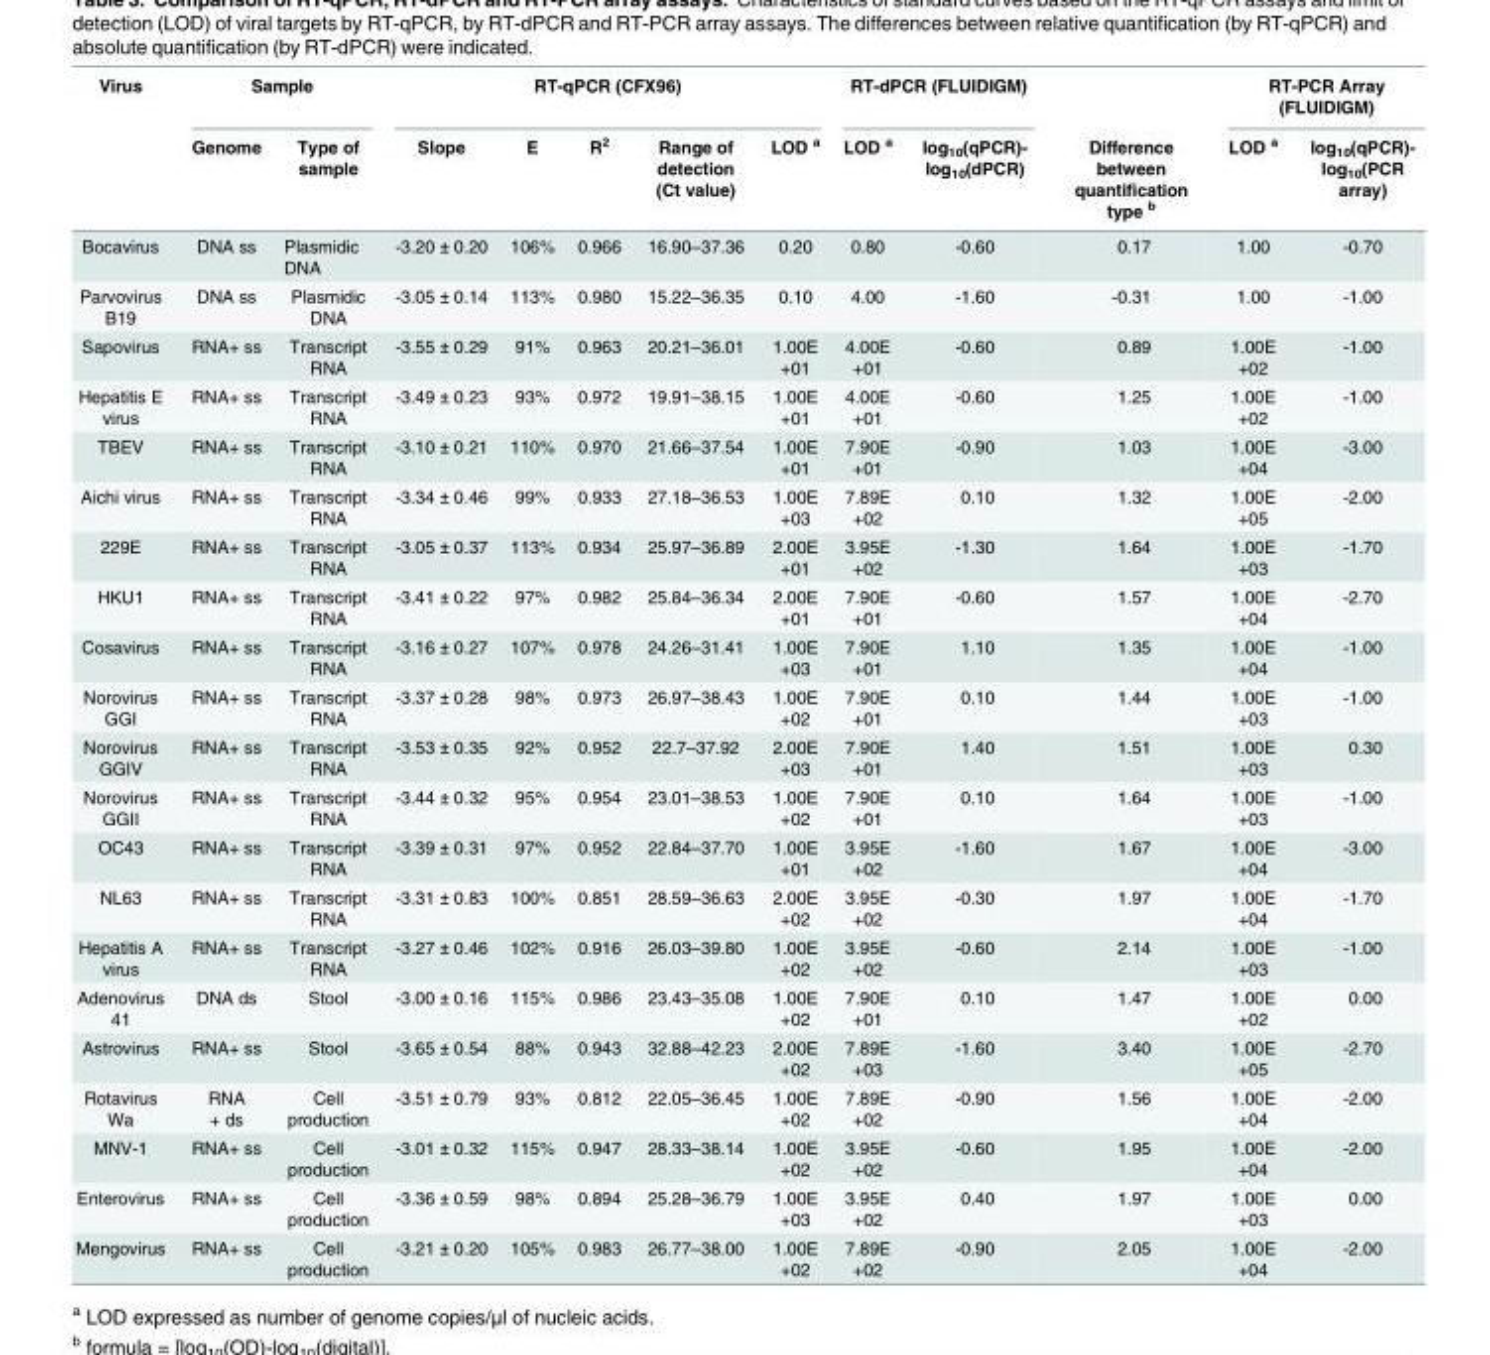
<table><thead><tr><td rowspan="2">Virus</td><td colspan="2">Sample</td><td colspan="5">RT-qPCR (CFX96)</td><td colspan="2">RT-dPCR (FLUIDIGM)</td><td rowspan="2">Difference between quantification type <sup>b</sup></td><td colspan="2">RT-PCR Array (FLUIDIGM)</td></tr><tr><td>Genome</td><td>Type of sample</td><td>Slope</td><td>E</td><td>R<sup>2</sup></td><td>Range of detection (Ct value)</td><td>LOD <sup>a</sup></td><td>LOD <sup>a</sup></td><td>log<sub>10</sub>(qPCR)- log<sub>10</sub>(dPCR)</td><td>LOD <sup>a</sup></td><td>log<sub>10</sub>(qPCR)- log<sub>10</sub>(PCR array)</td></tr></thead><tbody><tr><td>Bocavirus</td><td>DNA ss</td><td>Plasmidic DNA</td><td>-3.20 ± 0.20</td><td>106%</td><td>0.966</td><td>16.90–37.36</td><td>0.20</td><td>0.80</td><td>-0.60</td><td>0.17</td><td>1.00</td><td>-0.70</td></tr><tr><td>Parvovirus B19</td><td>DNA ss</td><td>Plasmidic DNA</td><td>-3.05 ± 0.14</td><td>113%</td><td>0.980</td><td>15.22–36.35</td><td>0.10</td><td>4.00</td><td>-1.60</td><td>-0.31</td><td>1.00</td><td>-1.00</td></tr><tr><td>Sapovirus</td><td>RNA+ ss</td><td>Transcript RNA</td><td>-3.55 ± 0.29</td><td>91%</td><td>0.963</td><td>20.21–36.01</td><td>1.00E +01</td><td>4.00E +01</td><td>-0.60</td><td>0.89</td><td>1.00E +02</td><td>-1.00</td></tr><tr><td>Hepatitis E virus</td><td>RNA+ ss</td><td>Transcript RNA</td><td>-3.49 ± 0.23</td><td>93%</td><td>0.972</td><td>19.91–38.15</td><td>1.00E +01</td><td>4.00E +01</td><td>-0.60</td><td>1.25</td><td>1.00E +02</td><td>-1.00</td></tr><tr><td>TBEV</td><td>RNA+ ss</td><td>Transcript RNA</td><td>-3.10 ± 0.21</td><td>110%</td><td>0.970</td><td>21.66–37.54</td><td>1.00E +01</td><td>7.90E +01</td><td>-0.90</td><td>1.03</td><td>1.00E +04</td><td>-3.00</td></tr><tr><td>Aichi virus</td><td>RNA+ ss</td><td>Transcript RNA</td><td>-3.34 ± 0.46</td><td>99%</td><td>0.933</td><td>27.18–36.53</td><td>1.00E +03</td><td>7.89E +02</td><td>0.10</td><td>1.32</td><td>1.00E +05</td><td>-2.00</td></tr><tr><td>229E</td><td>RNA+ ss</td><td>Transcript RNA</td><td>-3.05 ± 0.37</td><td>113%</td><td>0.934</td><td>25.97–36.89</td><td>2.00E +01</td><td>3.95E +02</td><td>-1.30</td><td>1.64</td><td>1.00E +03</td><td>-1.70</td></tr><tr><td>HKU1</td><td>RNA+ ss</td><td>Transcript RNA</td><td>-3.41 ± 0.22</td><td>97%</td><td>0.982</td><td>25.84–36.34</td><td>2.00E +01</td><td>7.90E +01</td><td>-0.60</td><td>1.57</td><td>1.00E +04</td><td>-2.70</td></tr><tr><td>Cosavirus</td><td>RNA+ ss</td><td>Transcript RNA</td><td>-3.16 ± 0.27</td><td>107%</td><td>0.978</td><td>24.26–31.41</td><td>1.00E +03</td><td>7.90E +01</td><td>1.10</td><td>1.35</td><td>1.00E +04</td><td>-1.00</td></tr><tr><td>Norovirus GGI</td><td>RNA+ ss</td><td>Transcript RNA</td><td>-3.37 ± 0.28</td><td>98%</td><td>0.973</td><td>26.97–38.43</td><td>1.00E +02</td><td>7.90E +01</td><td>0.10</td><td>1.44</td><td>1.00E +03</td><td>-1.00</td></tr><tr><td>Norovirus GGIV</td><td>RNA+ ss</td><td>Transcript RNA</td><td>-3.53 ± 0.35</td><td>92%</td><td>0.952</td><td>22.7–37.92</td><td>2.00E +03</td><td>7.90E +01</td><td>1.40</td><td>1.51</td><td>1.00E +03</td><td>0.30</td></tr><tr><td>Norovirus GGII</td><td>RNA+ ss</td><td>Transcript RNA</td><td>-3.44 ± 0.32</td><td>95%</td><td>0.954</td><td>23.01–38.53</td><td>1.00E +02</td><td>7.90E +01</td><td>0.10</td><td>1.64</td><td>1.00E +03</td><td>-1.00</td></tr><tr><td>OC43</td><td>RNA+ ss</td><td>Transcript RNA</td><td>-3.39 ± 0.31</td><td>97%</td><td>0.952</td><td>22.84–37.70</td><td>1.00E +01</td><td>3.95E +02</td><td>-1.60</td><td>1.67</td><td>1.00E +04</td><td>-3.00</td></tr><tr><td>NL63</td><td>RNA+ ss</td><td>Transcript RNA</td><td>-3.31 ± 0.83</td><td>100%</td><td>0.851</td><td>28.59–36.63</td><td>2.00E +02</td><td>3.95E +02</td><td>-0.30</td><td>1.97</td><td>1.00E +04</td><td>-1.70</td></tr><tr><td>Hepatitis A virus</td><td>RNA+ ss</td><td>Transcript RNA</td><td>-3.27 ± 0.46</td><td>102%</td><td>0.916</td><td>26.03–39.80</td><td>1.00E +02</td><td>3.95E +02</td><td>-0.60</td><td>2.14</td><td>1.00E +03</td><td>-1.00</td></tr><tr><td>Adenovirus 41</td><td>DNA ds</td><td>Stool</td><td>-3.00 ± 0.16</td><td>115%</td><td>0.986</td><td>23.43–35.08</td><td>1.00E +02</td><td>7.90E +01</td><td>0.10</td><td>1.47</td><td>1.00E +02</td><td>0.00</td></tr><tr><td>Astrovirus</td><td>RNA+ ss</td><td>Stool</td><td>-3.65 ± 0.54</td><td>88%</td><td>0.943</td><td>32.88–42.23</td><td>2.00E +02</td><td>7.89E +03</td><td>-1.60</td><td>3.40</td><td>1.00E +05</td><td>-2.70</td></tr><tr><td>Rotavirus Wa</td><td>RNA + ds</td><td>Cell production</td><td>-3.51 ± 0.79</td><td>93%</td><td>0.812</td><td>22.05–36.45</td><td>1.00E +02</td><td>7.89E +02</td><td>-0.90</td><td>1.56</td><td>1.00E +04</td><td>-2.00</td></tr><tr><td>MNV-1</td><td>RNA+ ss</td><td>Cell production</td><td>-3.01 ± 0.32</td><td>115%</td><td>0.947</td><td>28.33–38.14</td><td>1.00E +02</td><td>3.95E +02</td><td>-0.60</td><td>1.95</td><td>1.00E +04</td><td>-2.00</td></tr><tr><td>Enterovirus</td><td>RNA+ ss</td><td>Cell production</td><td>-3.36 ± 0.59</td><td>98%</td><td>0.894</td><td>25.28–36.79</td><td>1.00E +03</td><td>3.95E +02</td><td>0.40</td><td>1.97</td><td>1.00E +03</td><td>0.00</td></tr><tr><td>Mengovirus</td><td>RNA+ ss</td><td>Cell production</td><td>-3.21 ± 0.20</td><td>105%</td><td>0.983</td><td>26.77–38.00</td><td>1.00E +02</td><td>7.89E +02</td><td>-0.90</td><td>2.05</td><td>1.00E +04</td><td>-2.00</td></tr></tbody></table>